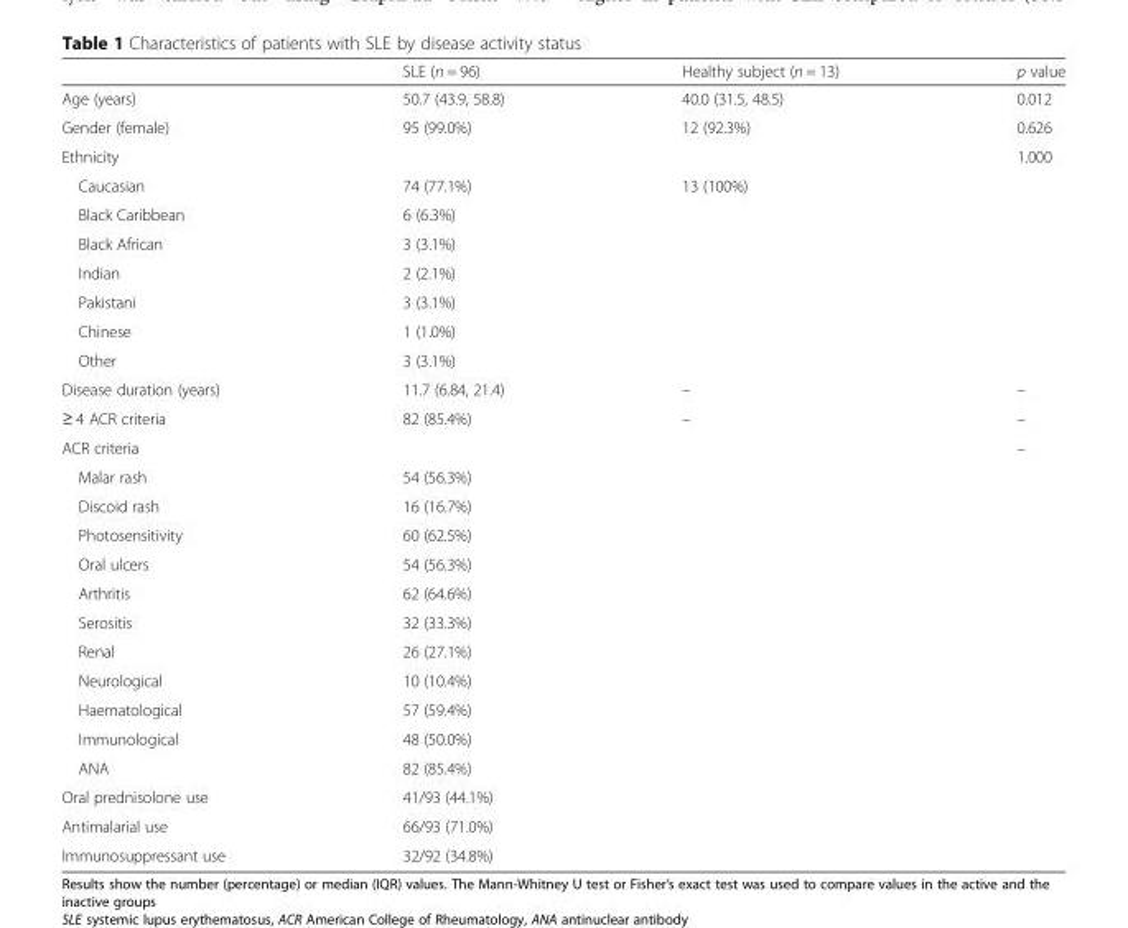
<table><thead><tr><td></td><td>SLE (n = 96)</td><td>Healthy subject (n = 13)</td><td>p value</td></tr></thead><tbody><tr><td>Age (years)</td><td>50.7 (43.9, 58.8)</td><td>40.0 (31.5, 48.5)</td><td>0.012</td></tr><tr><td>Gender (female)</td><td>95 (99.0%)</td><td>12 (92.3%)</td><td>0.626</td></tr><tr><td>Ethnicity</td><td></td><td></td><td>1.000</td></tr><tr><td>Caucasian</td><td>74 (77.1%)</td><td>13 (100%)</td><td rowspan="7"></td></tr><tr><td>Black Caribbean</td><td>6 (6.3%)</td><td></td></tr><tr><td>Black African</td><td>3 (3.1%)</td><td></td></tr><tr><td>Indian</td><td>2 (2.1%)</td><td></td></tr><tr><td>Pakistani</td><td>3 (3.1%)</td><td></td></tr><tr><td>Chinese</td><td>1 (1.0%)</td><td></td></tr><tr><td>Other</td><td>3 (3.1%)</td><td></td></tr><tr><td>Disease duration (years)</td><td>11.7 (6.84, 21.4)</td><td>–</td><td>–</td></tr><tr><td>≥ 4 ACR criteria</td><td>82 (85.4%)</td><td>–</td><td>–</td></tr><tr><td>ACR criteria</td><td></td><td></td><td>–</td></tr><tr><td>Malar rash</td><td>54 (56.3%)</td><td></td><td rowspan="14"></td></tr><tr><td>Discoid rash</td><td>16 (16.7%)</td><td></td></tr><tr><td>Photosensitivity</td><td>60 (62.5%)</td><td></td></tr><tr><td>Oral ulcers</td><td>54 (56.3%)</td><td></td></tr><tr><td>Arthritis</td><td>62 (64.6%)</td><td></td></tr><tr><td>Serositis</td><td>32 (33.3%)</td><td></td></tr><tr><td>Renal</td><td>26 (27.1%)</td><td></td></tr><tr><td>Neurological</td><td>10 (10.4%)</td><td></td></tr><tr><td>Haematological</td><td>57 (59.4%)</td><td></td></tr><tr><td>Immunological</td><td>48 (50.0%)</td><td></td></tr><tr><td>ANA</td><td>82 (85.4%)</td><td></td></tr><tr><td>Oral prednisolone use</td><td>41/93 (44.1%)</td><td></td></tr><tr><td>Antimalarial use</td><td>66/93 (71.0%)</td><td></td></tr><tr><td>Immunosuppressant use</td><td>32/92 (34.8%)</td><td></td></tr></tbody></table>